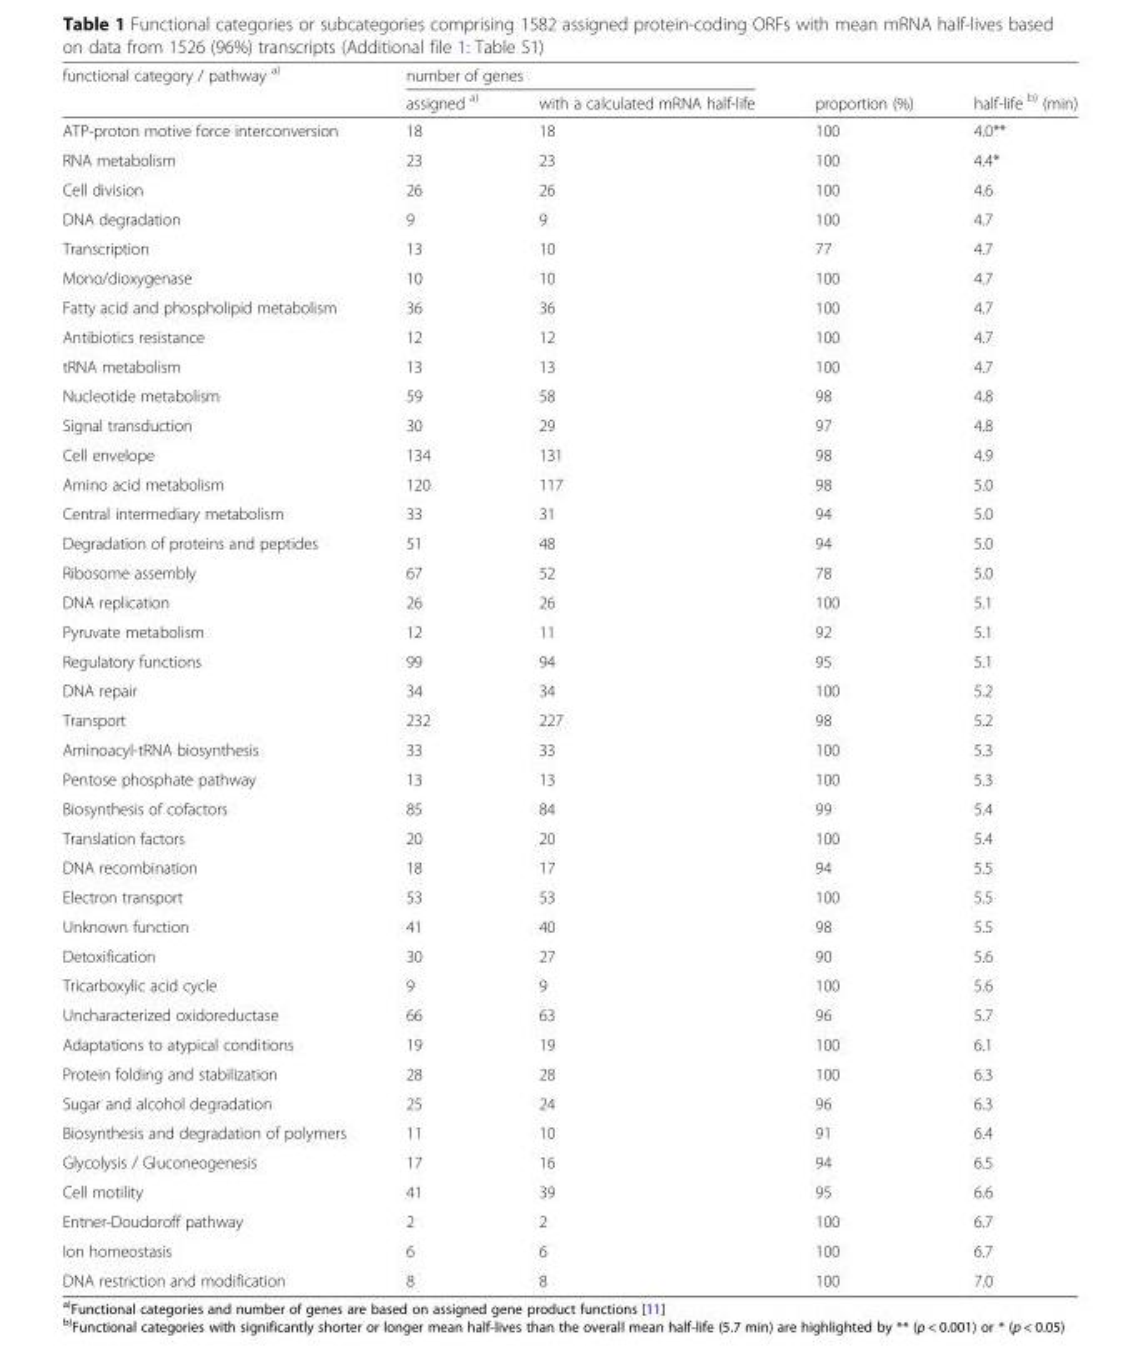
<table><thead><tr><td rowspan="2">functional category / pathway <sup>a)</sup></td><td colspan="2">number of genes</td><td rowspan="2">proportion (%)</td><td rowspan="2">half-life <sup>b)</sup> (min)</td></tr><tr><td>assigned <sup>a)</sup></td><td>with a calculated mRNA half-life</td></tr></thead><tbody><tr><td>ATP-proton motive force interconversion</td><td>18</td><td>18</td><td>100</td><td>4.0**</td></tr><tr><td>RNA metabolism</td><td>23</td><td>23</td><td>100</td><td>4.4*</td></tr><tr><td>Cell division</td><td>26</td><td>26</td><td>100</td><td>4.6</td></tr><tr><td>DNA degradation</td><td>9</td><td>9</td><td>100</td><td>4.7</td></tr><tr><td>Transcription</td><td>13</td><td>10</td><td>77</td><td>4.7</td></tr><tr><td>Mono/dioxygenase</td><td>10</td><td>10</td><td>100</td><td>4.7</td></tr><tr><td>Fatty acid and phospholipid metabolism</td><td>36</td><td>36</td><td>100</td><td>4.7</td></tr><tr><td>Antibiotics resistance</td><td>12</td><td>12</td><td>100</td><td>4.7</td></tr><tr><td>tRNA metabolism</td><td>13</td><td>13</td><td>100</td><td>4.7</td></tr><tr><td>Nucleotide metabolism</td><td>59</td><td>58</td><td>98</td><td>4.8</td></tr><tr><td>Signal transduction</td><td>30</td><td>29</td><td>97</td><td>4.8</td></tr><tr><td>Cell envelope</td><td>134</td><td>131</td><td>98</td><td>4.9</td></tr><tr><td>Amino acid metabolism</td><td>120</td><td>117</td><td>98</td><td>5.0</td></tr><tr><td>Central intermediary metabolism</td><td>33</td><td>31</td><td>94</td><td>5.0</td></tr><tr><td>Degradation of proteins and peptides</td><td>51</td><td>48</td><td>94</td><td>5.0</td></tr><tr><td>Ribosome assembly</td><td>67</td><td>52</td><td>78</td><td>5.0</td></tr><tr><td>DNA replication</td><td>26</td><td>26</td><td>100</td><td>5.1</td></tr><tr><td>Pyruvate metabolism</td><td>12</td><td>11</td><td>92</td><td>5.1</td></tr><tr><td>Regulatory functions</td><td>99</td><td>94</td><td>95</td><td>5.1</td></tr><tr><td>DNA repair</td><td>34</td><td>34</td><td>100</td><td>5.2</td></tr><tr><td>Transport</td><td>232</td><td>227</td><td>98</td><td>5.2</td></tr><tr><td>Aminoacyl-tRNA biosynthesis</td><td>33</td><td>33</td><td>100</td><td>5.3</td></tr><tr><td>Pentose phosphate pathway</td><td>13</td><td>13</td><td>100</td><td>5.3</td></tr><tr><td>Biosynthesis of cofactors</td><td>85</td><td>84</td><td>99</td><td>5.4</td></tr><tr><td>Translation factors</td><td>20</td><td>20</td><td>100</td><td>5.4</td></tr><tr><td>DNA recombination</td><td>18</td><td>17</td><td>94</td><td>5.5</td></tr><tr><td>Electron transport</td><td>53</td><td>53</td><td>100</td><td>5.5</td></tr><tr><td>Unknown function</td><td>41</td><td>40</td><td>98</td><td>5.5</td></tr><tr><td>Detoxification</td><td>30</td><td>27</td><td>90</td><td>5.6</td></tr><tr><td>Tricarboxylic acid cycle</td><td>9</td><td>9</td><td>100</td><td>5.6</td></tr><tr><td>Uncharacterized oxidoreductase</td><td>66</td><td>63</td><td>96</td><td>5.7</td></tr><tr><td>Adaptations to atypical conditions</td><td>19</td><td>19</td><td>100</td><td>6.1</td></tr><tr><td>Protein folding and stabilization</td><td>28</td><td>28</td><td>100</td><td>6.3</td></tr><tr><td>Sugar and alcohol degradation</td><td>25</td><td>24</td><td>96</td><td>6.3</td></tr><tr><td>Biosynthesis and degradation of polymers</td><td>11</td><td>10</td><td>91</td><td>6.4</td></tr><tr><td>Glycolysis / Gluconeogenesis</td><td>17</td><td>16</td><td>94</td><td>6.5</td></tr><tr><td>Cell motility</td><td>41</td><td>39</td><td>95</td><td>6.6</td></tr><tr><td>Entner-Doudoroff pathway</td><td>2</td><td>2</td><td>100</td><td>6.7</td></tr><tr><td>Ion homeostasis</td><td>6</td><td>6</td><td>100</td><td>6.7</td></tr><tr><td>DNA restriction and modification</td><td>8</td><td>8</td><td>100</td><td>7.0</td></tr></tbody></table>